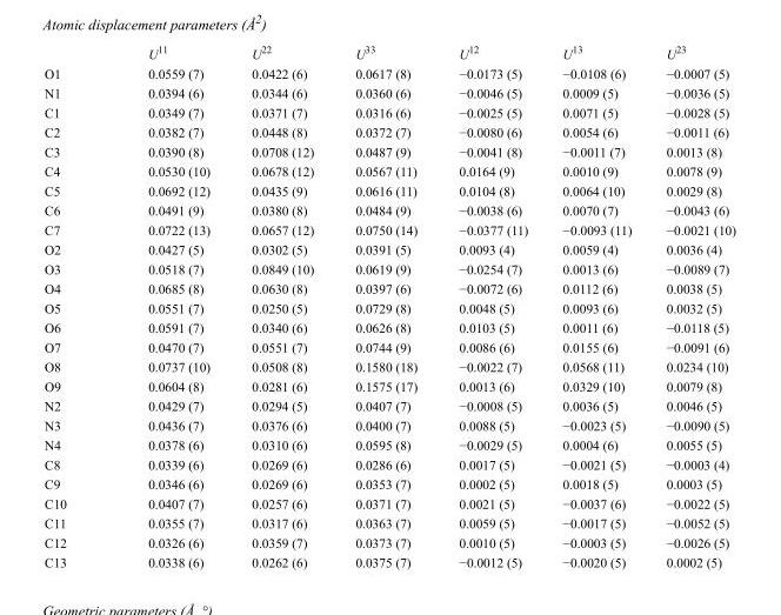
<table><thead><tr><td></td><td>U<sup>11</sup></td><td>U<sup>22</sup></td><td>U<sup>33</sup></td><td>U<sup>12</sup></td><td>U<sup>13</sup></td><td>U<sup>23</sup></td></tr></thead><tbody><tr><td>O1</td><td>0.0559 (7)</td><td>0.0422 (6)</td><td>0.0617 (8)</td><td>−0.0173 (5)</td><td>−0.0108 (6)</td><td>−0.0007 (5)</td></tr><tr><td>N1</td><td>0.0394 (6)</td><td>0.0344 (6)</td><td>0.0360 (6)</td><td>−0.0046 (5)</td><td>0.0009 (5)</td><td>−0.0036 (5)</td></tr><tr><td>C1</td><td>0.0349 (7)</td><td>0.0371 (7)</td><td>0.0316 (6)</td><td>−0.0025 (5)</td><td>0.0071 (5)</td><td>−0.0028 (5)</td></tr><tr><td>C2</td><td>0.0382 (7)</td><td>0.0448 (8)</td><td>0.0372 (7)</td><td>−0.0080 (6)</td><td>0.0054 (6)</td><td>−0.0011 (6)</td></tr><tr><td>C3</td><td>0.0390 (8)</td><td>0.0708 (12)</td><td>0.0487 (9)</td><td>−0.0041 (8)</td><td>−0.0011 (7)</td><td>0.0013 (8)</td></tr><tr><td>C4</td><td>0.0530 (10)</td><td>0.0678 (12)</td><td>0.0567 (11)</td><td>0.0164 (9)</td><td>0.0010 (9)</td><td>0.0078 (9)</td></tr><tr><td>C5</td><td>0.0692 (12)</td><td>0.0435 (9)</td><td>0.0616 (11)</td><td>0.0104 (8)</td><td>0.0064 (10)</td><td>0.0029 (8)</td></tr><tr><td>C6</td><td>0.0491 (9)</td><td>0.0380 (8)</td><td>0.0484 (9)</td><td>−0.0038 (6)</td><td>0.0070 (7)</td><td>−0.0043 (6)</td></tr><tr><td>C7</td><td>0.0722 (13)</td><td>0.0657 (12)</td><td>0.0750 (14)</td><td>−0.0377 (11)</td><td>−0.0093 (11)</td><td>−0.0021 (10)</td></tr><tr><td>O2</td><td>0.0427 (5)</td><td>0.0302 (5)</td><td>0.0391 (5)</td><td>0.0093 (4)</td><td>0.0059 (4)</td><td>0.0036 (4)</td></tr><tr><td>O3</td><td>0.0518 (7)</td><td>0.0849 (10)</td><td>0.0619 (9)</td><td>−0.0254 (7)</td><td>0.0013 (6)</td><td>−0.0089 (7)</td></tr><tr><td>O4</td><td>0.0685 (8)</td><td>0.0630 (8)</td><td>0.0397 (6)</td><td>−0.0072 (6)</td><td>0.0112 (6)</td><td>0.0038 (5)</td></tr><tr><td>O5</td><td>0.0551 (7)</td><td>0.0250 (5)</td><td>0.0729 (8)</td><td>0.0048 (5)</td><td>0.0093 (6)</td><td>0.0032 (5)</td></tr><tr><td>O6</td><td>0.0591 (7)</td><td>0.0340 (6)</td><td>0.0626 (8)</td><td>0.0103 (5)</td><td>0.0011 (6)</td><td>−0.0118 (5)</td></tr><tr><td>O7</td><td>0.0470 (7)</td><td>0.0551 (7)</td><td>0.0744 (9)</td><td>0.0086 (6)</td><td>0.0155 (6)</td><td>−0.0091 (6)</td></tr><tr><td>O8</td><td>0.0737 (10)</td><td>0.0508 (8)</td><td>0.1580 (18)</td><td>−0.0022 (7)</td><td>0.0568 (11)</td><td>0.0234 (10)</td></tr><tr><td>O9</td><td>0.0604 (8)</td><td>0.0281 (6)</td><td>0.1575 (17)</td><td>0.0013 (6)</td><td>0.0329 (10)</td><td>0.0079 (8)</td></tr><tr><td>N2</td><td>0.0429 (7)</td><td>0.0294 (5)</td><td>0.0407 (7)</td><td>−0.0008 (5)</td><td>0.0036 (5)</td><td>0.0046 (5)</td></tr><tr><td>N3</td><td>0.0436 (7)</td><td>0.0376 (6)</td><td>0.0400 (7)</td><td>0.0088 (5)</td><td>−0.0023 (5)</td><td>−0.0090 (5)</td></tr><tr><td>N4</td><td>0.0378 (6)</td><td>0.0310 (6)</td><td>0.0595 (8)</td><td>−0.0029 (5)</td><td>0.0004 (6)</td><td>0.0055 (5)</td></tr><tr><td>C8</td><td>0.0339 (6)</td><td>0.0269 (6)</td><td>0.0286 (6)</td><td>0.0017 (5)</td><td>−0.0021 (5)</td><td>−0.0003 (4)</td></tr><tr><td>C9</td><td>0.0346 (6)</td><td>0.0269 (6)</td><td>0.0353 (7)</td><td>0.0002 (5)</td><td>0.0018 (5)</td><td>0.0003 (5)</td></tr><tr><td>C10</td><td>0.0407 (7)</td><td>0.0257 (6)</td><td>0.0371 (7)</td><td>0.0021 (5)</td><td>−0.0037 (6)</td><td>−0.0022 (5)</td></tr><tr><td>C11</td><td>0.0355 (7)</td><td>0.0317 (6)</td><td>0.0363 (7)</td><td>0.0059 (5)</td><td>−0.0017 (5)</td><td>−0.0052 (5)</td></tr><tr><td>C12</td><td>0.0326 (6)</td><td>0.0359 (7)</td><td>0.0373 (7)</td><td>0.0010 (5)</td><td>−0.0003 (5)</td><td>−0.0026 (5)</td></tr><tr><td>C13</td><td>0.0338 (6)</td><td>0.0262 (6)</td><td>0.0375 (7)</td><td>−0.0012 (5)</td><td>−0.0020 (5)</td><td>0.0002 (5)</td></tr></tbody></table>